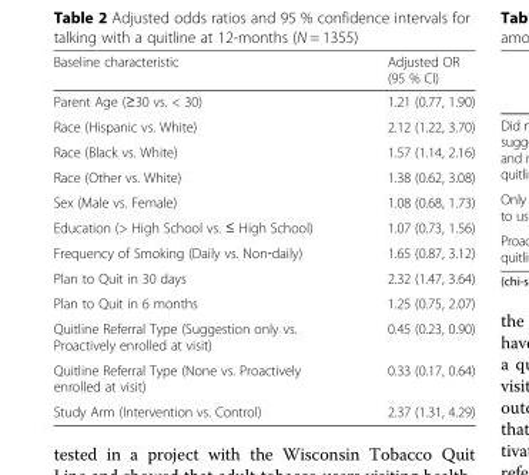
<table><thead><tr><td>Baseline characteristic</td><td>Adjusted OR (95 % CI)</td></tr></thead><tbody><tr><td>Parent Age (≥30 vs. &lt; 30)</td><td>1.21 (0.77, 1.90)</td></tr><tr><td>Race (Hispanic vs. White)</td><td>2.12 (1.22, 3.70)</td></tr><tr><td>Race (Black vs. White)</td><td>1.57 (1.14, 2.16)</td></tr><tr><td>Race (Other vs. White)</td><td>1.38 (0.62, 3.08)</td></tr><tr><td>Sex (Male vs. Female)</td><td>1.08 (0.68, 1.73)</td></tr><tr><td>Education (&gt; High School vs. ≤ High School)</td><td>1.07 (0.73, 1.56)</td></tr><tr><td>Frequency of Smoking (Daily vs. Non‐daily)</td><td>1.65 (0.87, 3.12)</td></tr><tr><td>Plan to Quit in 30 days</td><td>2.32 (1.47, 3.64)</td></tr><tr><td>Plan to Quit in 6 months</td><td>1.25 (0.75, 2.07)</td></tr><tr><td>Quitline Referral Type (Suggestion only vs. Proactively enrolled at visit)</td><td>0.45 (0.23, 0.90)</td></tr><tr><td>Quitline Referral Type (None vs. Proactively enrolled at visit)</td><td>0.33 (0.17, 0.64)</td></tr><tr><td>Study Arm (Intervention vs. Control)</td><td>2.37 (1.31, 4.29)</td></tr></tbody></table>